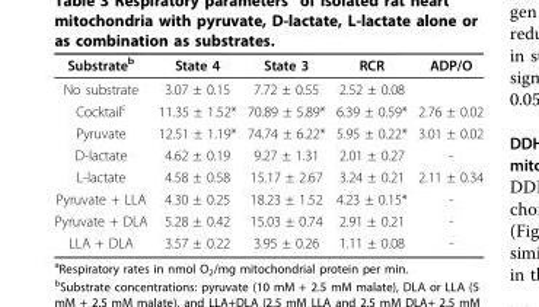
<table><thead><tr><td>Substrate<sup>b</sup></td><td>State 4</td><td>State 3</td><td>RCR</td><td>ADP/O</td></tr></thead><tbody><tr><td>No substrate</td><td>3.07 ± 0.15</td><td>7.72 ± 0.55</td><td>2.52 ± 0.08</td><td></td></tr><tr><td>Cocktail<sup>c</sup></td><td>11.35 ± 1.52*</td><td>70.89 ± 5.89*</td><td>6.39 ± 0.59*</td><td>2.76 ± 0.02</td></tr><tr><td>Pyruvate</td><td>12.51 ± 1.19*</td><td>74.74 ± 6.22*</td><td>5.95 ± 0.22*</td><td>3.01 ± 0.02</td></tr><tr><td>D-lactate</td><td>4.62 ± 0.19</td><td>9.27 ± 1.31</td><td>2.01 ± 0.27</td><td>-</td></tr><tr><td>L-lactate</td><td>4.58 ± 0.58</td><td>15.17 ± 2.67</td><td>3.24 ± 0.21</td><td>2.11 ± 0.34</td></tr><tr><td>Pyruvate + LLA</td><td>4.30 ± 0.25</td><td>18.23 ± 1.52</td><td>4.23 ± 0.15*</td><td>-</td></tr><tr><td>Pyruvate + DLA</td><td>5.28 ± 0.42</td><td>15.03 ± 0.74</td><td>2.91 ± 0.21</td><td>-</td></tr><tr><td>LLA + DLA</td><td>3.57 ± 0.22</td><td>3.95 ± 0.26</td><td>1.11 ± 0.08</td><td>-</td></tr></tbody></table>